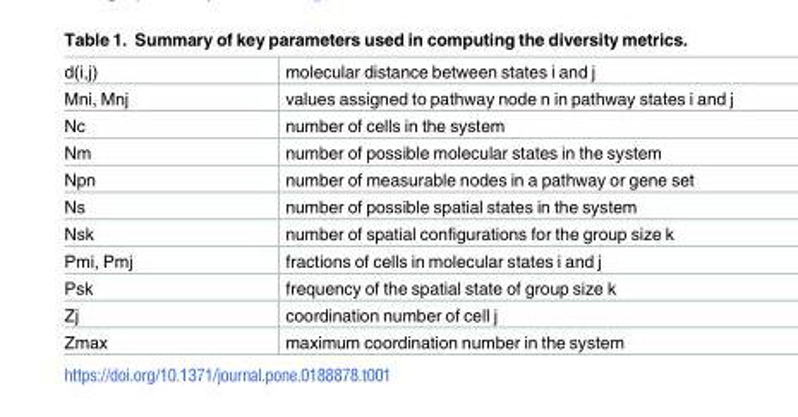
<table><tbody><tr><td>d(i,j)</td><td>molecular distance between states i and j</td></tr><tr><td>Mni, Mnj</td><td>values assigned to pathway node n in pathway states i and j</td></tr><tr><td>Nc</td><td>number of cells in the system</td></tr><tr><td>Nm</td><td>number of possible molecular states in the system</td></tr><tr><td>Npn</td><td>number of measurable nodes in a pathway or gene set</td></tr><tr><td>Ns</td><td>number of possible spatial states in the system</td></tr><tr><td>Nsk</td><td>number of spatial configurations for the group size k</td></tr><tr><td>Pmi, Pmj</td><td>fractions of cells in molecular states i and j</td></tr><tr><td>Psk</td><td>frequency of the spatial state of group size k</td></tr><tr><td>Zj</td><td>coordination number of cell j</td></tr><tr><td>Zmax</td><td>maximum coordination number in the system</td></tr></tbody></table>